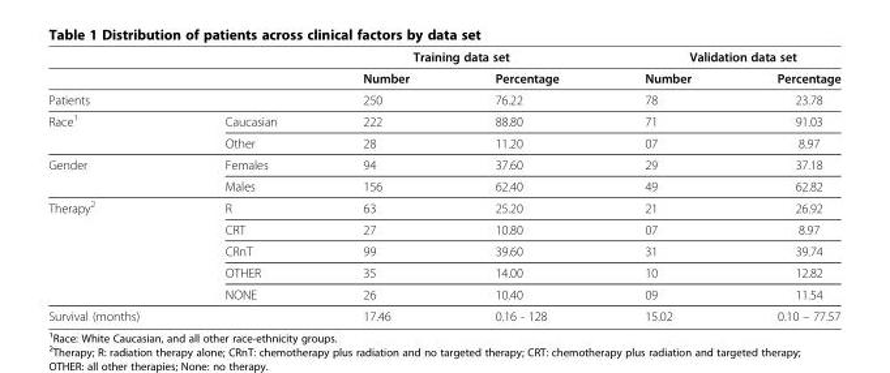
<table><thead><tr><td rowspan="2"></td><td rowspan="2"></td><td colspan="2">Training data set</td><td colspan="2">Validation data set</td></tr><tr><td>Number</td><td>Percentage</td><td>Number</td><td>Percentage</td></tr></thead><tbody><tr><td>Patients</td><td></td><td>250</td><td>76.22</td><td>78</td><td>23.78</td></tr><tr><td rowspan="2">Race<sup>1</sup></td><td>Caucasian</td><td>222</td><td>88.80</td><td>71</td><td>91.03</td></tr><tr><td>Other</td><td>28</td><td>11.20</td><td>07</td><td>8.97</td></tr><tr><td rowspan="2">Gender</td><td>Females</td><td>94</td><td>37.60</td><td>29</td><td>37.18</td></tr><tr><td>Males</td><td>156</td><td>62.40</td><td>49</td><td>62.82</td></tr><tr><td rowspan="5">Therapy<sup>2</sup></td><td>R</td><td>63</td><td>25.20</td><td>21</td><td>26.92</td></tr><tr><td>CRT</td><td>27</td><td>10.80</td><td>07</td><td>8.97</td></tr><tr><td>CRnT</td><td>99</td><td>39.60</td><td>31</td><td>39.74</td></tr><tr><td>OTHER</td><td>35</td><td>14.00</td><td>10</td><td>12.82</td></tr><tr><td>NONE</td><td>26</td><td>10.40</td><td>09</td><td>11.54</td></tr><tr><td>Survival (months)</td><td></td><td>17.46</td><td>0.16 - 128</td><td>15.02</td><td>0.10 – 77.57</td></tr></tbody></table>